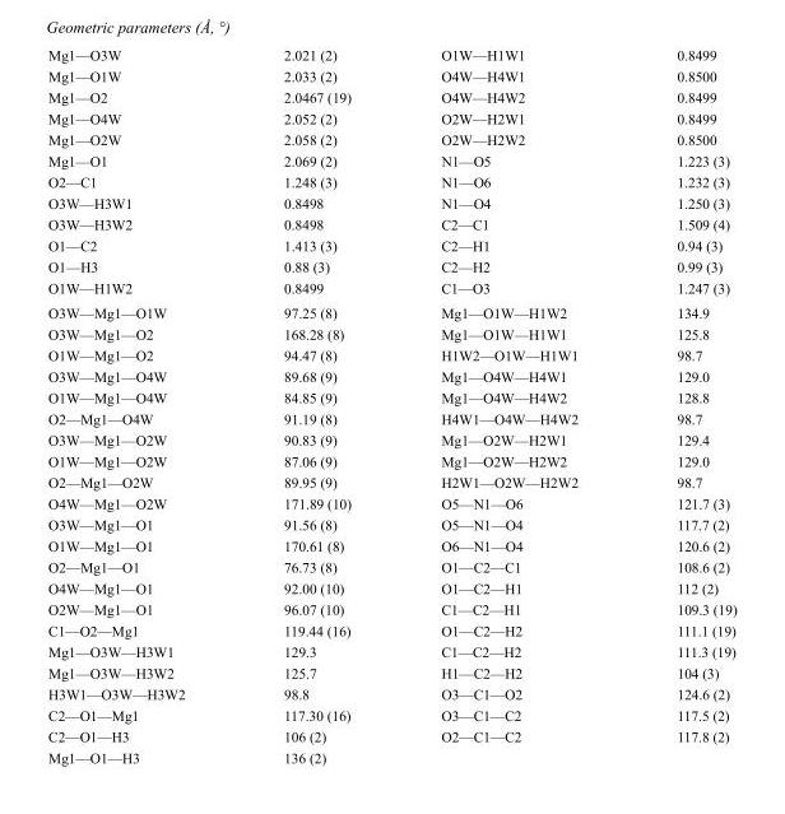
<table><tbody><tr><td>Mg1—O3W</td><td>2.021 (2)</td><td>O1W—H1W1</td><td>0.8499</td></tr><tr><td>Mg1—O1W</td><td>2.033 (2)</td><td>O4W—H4W1</td><td>0.8500</td></tr><tr><td>Mg1—O2</td><td>2.0467 (19)</td><td>O4W—H4W2</td><td>0.8499</td></tr><tr><td>Mg1—O4W</td><td>2.052 (2)</td><td>O2W—H2W1</td><td>0.8499</td></tr><tr><td>Mg1—O2W</td><td>2.058 (2)</td><td>O2W—H2W2</td><td>0.8500</td></tr><tr><td>Mg1—O1</td><td>2.069 (2)</td><td>N1—O5</td><td>1.223 (3)</td></tr><tr><td>O2—C1</td><td>1.248 (3)</td><td>N1—O6</td><td>1.232 (3)</td></tr><tr><td>O3W—H3W1</td><td>0.8498</td><td>N1—O4</td><td>1.250 (3)</td></tr><tr><td>O3W—H3W2</td><td>0.8498</td><td>C2—C1</td><td>1.509 (4)</td></tr><tr><td>O1—C2</td><td>1.413 (3)</td><td>C2—H1</td><td>0.94 (3)</td></tr><tr><td>O1—H3</td><td>0.88 (3)</td><td>C2—H2</td><td>0.99 (3)</td></tr><tr><td>O1W—H1W2</td><td>0.8499</td><td>C1—O3</td><td>1.247 (3)</td></tr><tr><td>O3W—Mg1—O1W</td><td>97.25 (8)</td><td>Mg1—O1W—H1W2</td><td>134.9</td></tr><tr><td>O3W—Mg1—O2</td><td>168.28 (8)</td><td>Mg1—O1W—H1W1</td><td>125.8</td></tr><tr><td>O1W—Mg1—O2</td><td>94.47 (8)</td><td>H1W2—O1W—H1W1</td><td>98.7</td></tr><tr><td>O3W—Mg1—O4W</td><td>89.68 (9)</td><td>Mg1—O4W—H4W1</td><td>129.0</td></tr><tr><td>O1W—Mg1—O4W</td><td>84.85 (9)</td><td>Mg1—O4W—H4W2</td><td>128.8</td></tr><tr><td>O2—Mg1—O4W</td><td>91.19 (8)</td><td>H4W1—O4W—H4W2</td><td>98.7</td></tr><tr><td>O3W—Mg1—O2W</td><td>90.83 (9)</td><td>Mg1—O2W—H2W1</td><td>129.4</td></tr><tr><td>O1W—Mg1—O2W</td><td>87.06 (9)</td><td>Mg1—O2W—H2W2</td><td>129.0</td></tr><tr><td>O2—Mg1—O2W</td><td>89.95 (9)</td><td>H2W1—O2W—H2W2</td><td>98.7</td></tr><tr><td>O4W—Mg1—O2W</td><td>171.89 (10)</td><td>O5—N1—O6</td><td>121.7 (3)</td></tr><tr><td>O3W—Mg1—O1</td><td>91.56 (8)</td><td>O5—N1—O4</td><td>117.7 (2)</td></tr><tr><td>O1W—Mg1—O1</td><td>170.61 (8)</td><td>O6—N1—O4</td><td>120.6 (2)</td></tr><tr><td>O2—Mg1—O1</td><td>76.73 (8)</td><td>O1—C2—C1</td><td>108.6 (2)</td></tr><tr><td>O4W—Mg1—O1</td><td>92.00 (10)</td><td>O1—C2—H1</td><td>112 (2)</td></tr><tr><td>O2W—Mg1—O1</td><td>96.07 (10)</td><td>C1—C2—H1</td><td>109.3 (19)</td></tr><tr><td>C1—O2—Mg1</td><td>119.44 (16)</td><td>O1—C2—H2</td><td>111.1 (19)</td></tr><tr><td>Mg1—O3W—H3W1</td><td>129.3</td><td>C1—C2—H2</td><td>111.3 (19)</td></tr><tr><td>Mg1—O3W—H3W2</td><td>125.7</td><td>H1—C2—H2</td><td>104 (3)</td></tr><tr><td>H3W1—O3W—H3W2</td><td>98.8</td><td>O3—C1—O2</td><td>124.6 (2)</td></tr><tr><td>C2—O1—Mg1</td><td>117.30 (16)</td><td>O3—C1—C2</td><td>117.5 (2)</td></tr><tr><td>C2—O1—H3</td><td>106 (2)</td><td>O2—C1—C2</td><td>117.8 (2)</td></tr><tr><td>Mg1—O1—H3</td><td>136 (2)</td><td></td><td></td></tr></tbody></table>